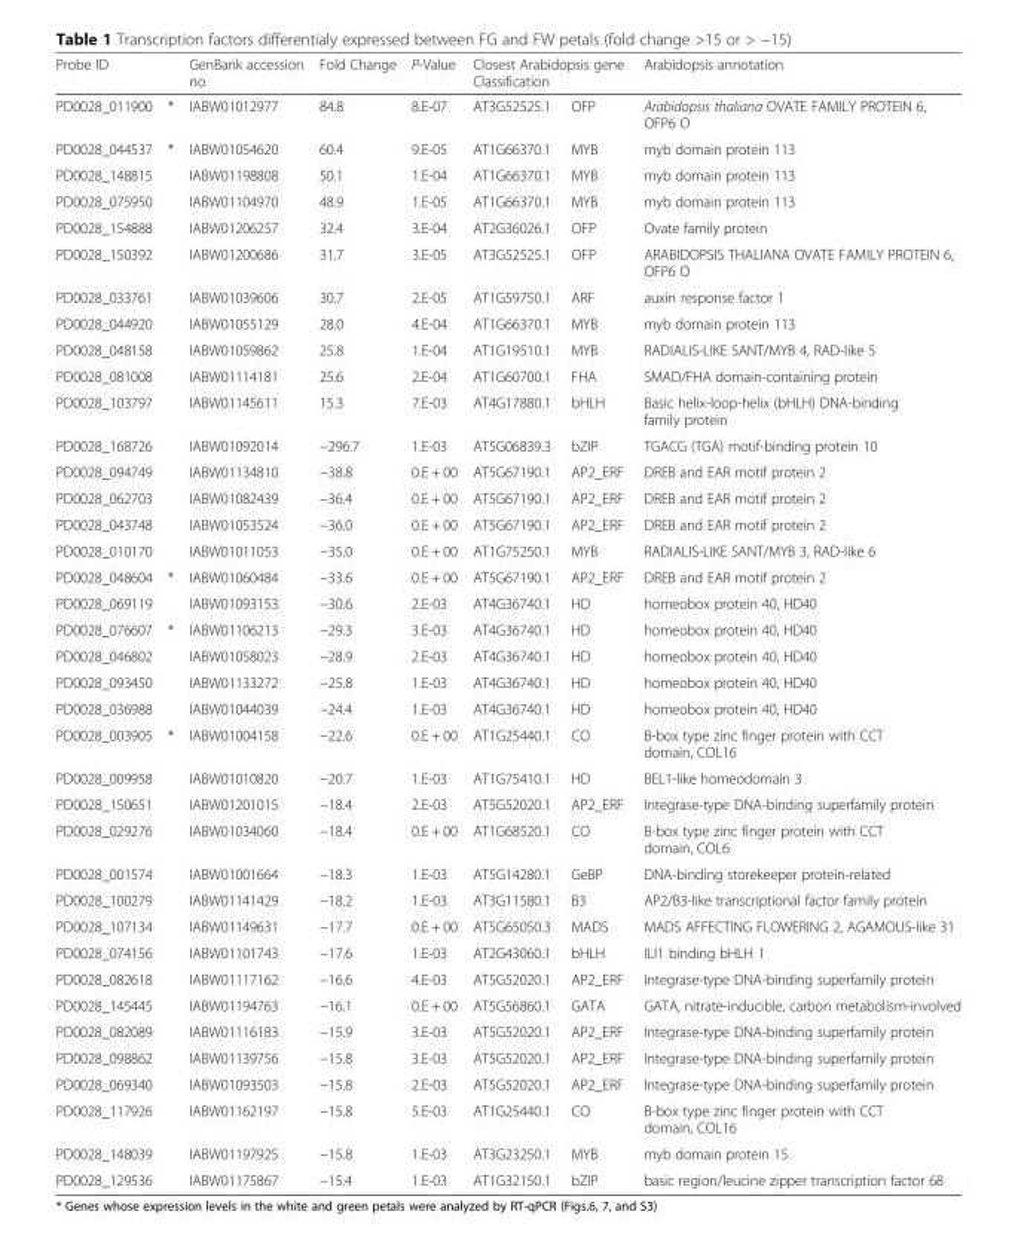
<table><thead><tr><td rowspan="2">Probe ID PD0028_011900</td><td rowspan="2">*</td><td rowspan="2">GenBank accession no IABW01012977</td><td rowspan="2">Fold Change 84.8</td><td rowspan="2">P-Value 8.E-07</td><td colspan="2">Closest Arabidopsis gene Classification</td><td rowspan="2">Arabidopsis annotation Arabidopsis thaliana OVATE FAMILY PROTEIN 6, OFP6 O</td></tr><tr><td>AT3G52525.1</td><td>OFP</td></tr></thead><tbody><tr><td>PD0028_044537</td><td>*</td><td>IABW01054620</td><td>60.4</td><td>9.E-05</td><td>AT1G66370.1</td><td>MYB</td><td>myb domain protein 113</td></tr><tr><td>PD0028_148815</td><td></td><td>IABW01198808</td><td>50.1</td><td>1.E-04</td><td>AT1G66370.1</td><td>MYB</td><td>myb domain protein 113</td></tr><tr><td>PD0028_075950</td><td></td><td>IABW01104970</td><td>48.9</td><td>1.E-05</td><td>AT1G66370.1</td><td>MYB</td><td>myb domain protein 113</td></tr><tr><td>PD0028_154888</td><td></td><td>IABW01206257</td><td>32.4</td><td>3.E-04</td><td>AT2G36026.1</td><td>OFP</td><td>Ovate family protein</td></tr><tr><td>PD0028_150392</td><td></td><td>IABW01200686</td><td>31.7</td><td>3.E-05</td><td>AT3G52525.1</td><td>OFP</td><td>ARABIDOPSIS THALIANA OVATE FAMILY PROTEIN 6, OFP6 O</td></tr><tr><td>PD0028_033761</td><td></td><td>IABW01039606</td><td>30.7</td><td>2.E-05</td><td>AT1G59750.1</td><td>ARF</td><td>auxin response factor 1</td></tr><tr><td>PD0028_044920</td><td></td><td>IABW01055129</td><td>28.0</td><td>4.E-04</td><td>AT1G66370.1</td><td>MYB</td><td>myb domain protein 113</td></tr><tr><td>PD0028_048158</td><td></td><td>IABW01059862</td><td>25.8</td><td>1.E-04</td><td>AT1G19510.1</td><td>MYB</td><td>RADIALIS-LIKE SANT/MYB 4, RAD-like 5</td></tr><tr><td>PD0028_081008</td><td></td><td>IABW01114181</td><td>25.6</td><td>2.E-04</td><td>AT1G60700.1</td><td>FHA</td><td>SMAD/FHA domain-containing protein</td></tr><tr><td>PD0028_103797</td><td></td><td>IABW01145611</td><td>15.3</td><td>7.E-03</td><td>AT4G17880.1</td><td>bHLH</td><td>Basic helix-loop-helix (bHLH) DNA-binding family protein</td></tr><tr><td>PD0028_168726</td><td></td><td>IABW01092014</td><td>−296.7</td><td>1.E-03</td><td>AT5G06839.3</td><td>bZIP</td><td>TGACG (TGA) motif-binding protein 10</td></tr><tr><td>PD0028_094749</td><td></td><td>IABW01134810</td><td>−38.8</td><td>0.E + 00</td><td>AT5G67190.1</td><td>AP2_ERF</td><td>DREB and EAR motif protein 2</td></tr><tr><td>PD0028_062703</td><td></td><td>IABW01082439</td><td>−36.4</td><td>0.E + 00</td><td>AT5G67190.1</td><td>AP2_ERF</td><td>DREB and EAR motif protein 2</td></tr><tr><td>PD0028_043748</td><td></td><td>IABW01053524</td><td>−36.0</td><td>0.E + 00</td><td>AT5G67190.1</td><td>AP2_ERF</td><td>DREB and EAR motif protein 2</td></tr><tr><td>PD0028_010170</td><td></td><td>IABW01011053</td><td>−35.0</td><td>0.E + 00</td><td>AT1G75250.1</td><td>MYB</td><td>RADIALIS-LIKE SANT/MYB 3, RAD-like 6</td></tr><tr><td>PD0028_048604</td><td>*</td><td>IABW01060484</td><td>−33.6</td><td>0.E + 00</td><td>AT5G67190.1</td><td>AP2_ERF</td><td>DREB and EAR motif protein 2</td></tr><tr><td>PD0028_069119</td><td></td><td>IABW01093153</td><td>−30.6</td><td>2.E-03</td><td>AT4G36740.1</td><td>HD</td><td>homeobox protein 40, HD40</td></tr><tr><td>PD0028_076607</td><td>*</td><td>IABW01106213</td><td>−29.3</td><td>3.E-03</td><td>AT4G36740.1</td><td>HD</td><td>homeobox protein 40, HD40</td></tr><tr><td>PD0028_046802</td><td></td><td>IABW01058023</td><td>−28.9</td><td>2.E-03</td><td>AT4G36740.1</td><td>HD</td><td>homeobox protein 40, HD40</td></tr><tr><td>PD0028_093450</td><td></td><td>IABW01133272</td><td>−25.8</td><td>1.E-03</td><td>AT4G36740.1</td><td>HD</td><td>homeobox protein 40, HD40</td></tr><tr><td>PD0028_036988</td><td></td><td>IABW01044039</td><td>−24.4</td><td>1.E-03</td><td>AT4G36740.1</td><td>HD</td><td>homeobox protein 40, HD40</td></tr><tr><td>PD0028_003905</td><td>*</td><td>IABW01004158</td><td>−22.6</td><td>0.E + 00</td><td>AT1G25440.1</td><td>CO</td><td>B-box type zinc finger protein with CCT domain, COL16</td></tr><tr><td>PD0028_009958</td><td></td><td>IABW01010820</td><td>−20.7</td><td>1.E-03</td><td>AT1G75410.1</td><td>HD</td><td>BEL1-like homeodomain 3</td></tr><tr><td>PD0028_150651</td><td></td><td>IABW01201015</td><td>−18.4</td><td>2.E-03</td><td>AT5G52020.1</td><td>AP2_ERF</td><td>Integrase-type DNA-binding superfamily protein</td></tr><tr><td>PD0028_029276</td><td></td><td>IABW01034060</td><td>−18.4</td><td>0.E + 00</td><td>AT1G68520.1</td><td>CO</td><td>B-box type zinc finger protein with CCT domain, COL6</td></tr><tr><td>PD0028_001574</td><td></td><td>IABW01001664</td><td>−18.3</td><td>1.E-03</td><td>AT5G14280.1</td><td>GeBP</td><td>DNA-binding storekeeper protein-related</td></tr><tr><td>PD0028_100279</td><td></td><td>IABW01141429</td><td>−18.2</td><td>1.E-03</td><td>AT3G11580.1</td><td>B3</td><td>AP2/B3-like transcriptional factor family protein</td></tr><tr><td>PD0028_107134</td><td></td><td>IABW01149631</td><td>−17.7</td><td>0.E + 00</td><td>AT5G65050.3</td><td>MADS</td><td>MADS AFFECTING FLOWERING 2, AGAMOUS-like 31</td></tr><tr><td>PD0028_074156</td><td></td><td>IABW01101743</td><td>−17.6</td><td>1.E-03</td><td>AT2G43060.1</td><td>bHLH</td><td>ILI1 binding bHLH 1</td></tr><tr><td>PD0028_082618</td><td></td><td>IABW01117162</td><td>−16.6</td><td>4.E-03</td><td>AT5G52020.1</td><td>AP2_ERF</td><td>Integrase-type DNA-binding superfamily protein</td></tr><tr><td>PD0028_145445</td><td></td><td>IABW01194763</td><td>−16.1</td><td>0.E + 00</td><td>AT5G56860.1</td><td>GATA</td><td>GATA, nitrate-inducible, carbon metabolism-involved</td></tr><tr><td>PD0028_082089</td><td></td><td>IABW01116183</td><td>−15.9</td><td>3.E-03</td><td>AT5G52020.1</td><td>AP2_ERF</td><td>Integrase-type DNA-binding superfamily protein</td></tr><tr><td>PD0028_098862</td><td></td><td>IABW01139756</td><td>−15.8</td><td>3.E-03</td><td>AT5G52020.1</td><td>AP2_ERF</td><td>Integrase-type DNA-binding superfamily protein</td></tr><tr><td>PD0028_069340</td><td></td><td>IABW01093503</td><td>−15.8</td><td>2.E-03</td><td>AT5G52020.1</td><td>AP2_ERF</td><td>Integrase-type DNA-binding superfamily protein</td></tr><tr><td>PD0028_117926</td><td></td><td>IABW01162197</td><td>−15.8</td><td>5.E-03</td><td>AT1G25440.1</td><td>CO</td><td>B-box type zinc finger protein with CCT domain, COL16</td></tr><tr><td>PD0028_148039</td><td></td><td>IABW01197925</td><td>−15.8</td><td>1.E-03</td><td>AT3G23250.1</td><td>MYB</td><td>myb domain protein 15</td></tr><tr><td>PD0028_129536</td><td></td><td>IABW01175867</td><td>−15.4</td><td>1.E-03</td><td>AT1G32150.1</td><td>bZIP</td><td>basic region/leucine zipper transcription factor 68</td></tr></tbody></table>